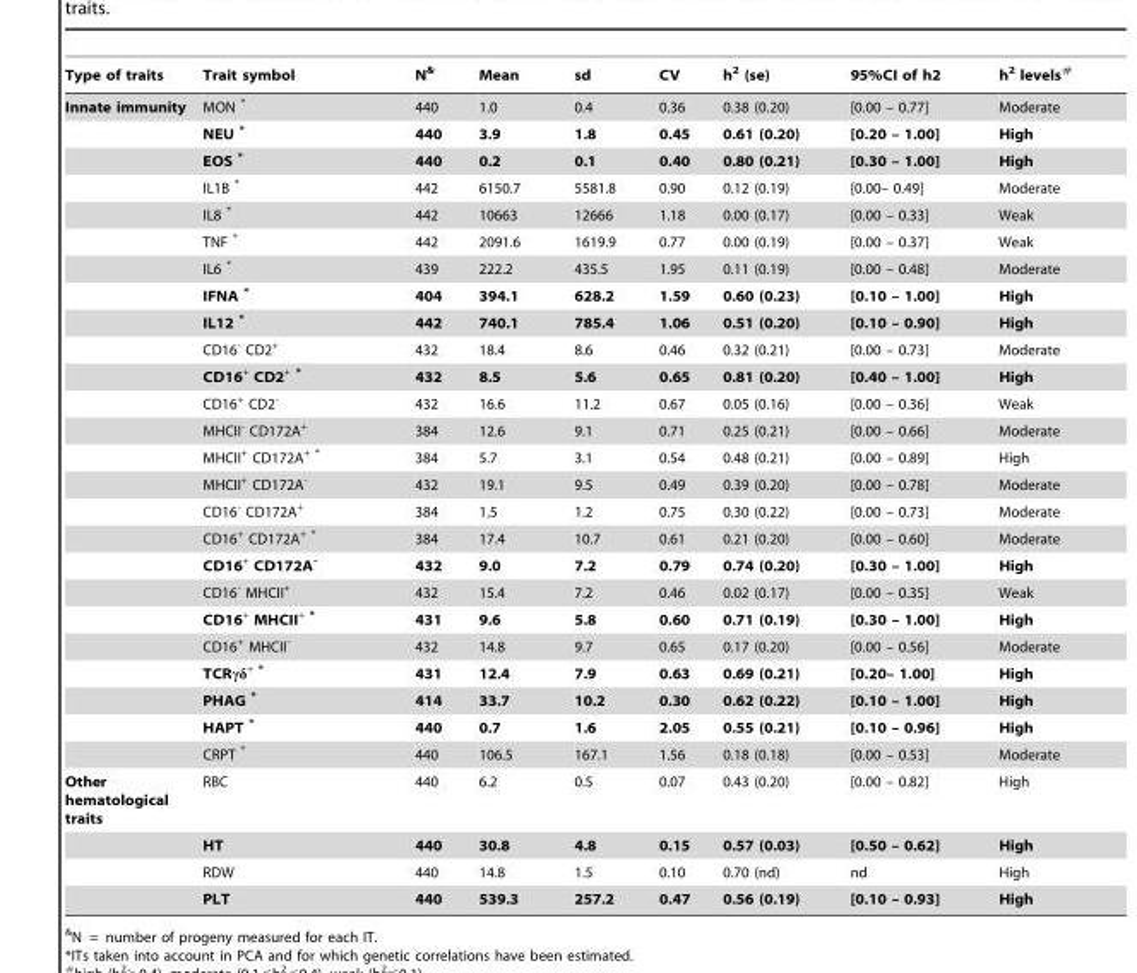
<table><thead><tr><td>Type of traits</td><td>Trait symbol</td><td>N&amp;</td><td>Mean</td><td>sd</td><td>CV</td><td>h<sup>2</sup> (se)</td><td>95%CI of h2</td><td>h<sup>2</sup> levels#</td></tr></thead><tbody><tr><td rowspan="25">Innate immunity</td><td>MON *</td><td>440</td><td>1.0</td><td>0.4</td><td>0.36</td><td>0.38 (0.20)</td><td>[0.00 – 0.77]</td><td>Moderate</td></tr><tr><td>NEU *</td><td>440</td><td>3.9</td><td>1.8</td><td>0.45</td><td>0.61 (0.20)</td><td>[0.20 – 1.00]</td><td>High</td></tr><tr><td>EOS *</td><td>440</td><td>0.2</td><td>0.1</td><td>0.40</td><td>0.80 (0.21)</td><td>[0.30 – 1.00]</td><td>High</td></tr><tr><td>IL1B *</td><td>442</td><td>6150.7</td><td>5581.8</td><td>0.90</td><td>0.12 (0.19)</td><td>[0.00– 0.49]</td><td>Moderate</td></tr><tr><td>IL8 *</td><td>442</td><td>10663</td><td>12666</td><td>1.18</td><td>0.00 (0.17)</td><td>[0.00 – 0.33]</td><td>Weak</td></tr><tr><td>TNF *</td><td>442</td><td>2091.6</td><td>1619.9</td><td>0.77</td><td>0.00 (0.19)</td><td>[0.00 – 0.37]</td><td>Weak</td></tr><tr><td>IL6 *</td><td>439</td><td>222.2</td><td>435.5</td><td>1.95</td><td>0.11 (0.19)</td><td>[0.00 – 0.48]</td><td>Moderate</td></tr><tr><td>IFNA *</td><td>404</td><td>394.1</td><td>628.2</td><td>1.59</td><td>0.60 (0.23)</td><td>[0.10 – 1.00]</td><td>High</td></tr><tr><td>IL12 *</td><td>442</td><td>740.1</td><td>785.4</td><td>1.06</td><td>0.51 (0.20)</td><td>[0.10 – 0.90]</td><td>High</td></tr><tr><td>CD16<sup>-</sup> CD2<sup>+</sup></td><td>432</td><td>18.4</td><td>8.6</td><td>0.46</td><td>0.32 (0.21)</td><td>[0.00 – 0.73]</td><td>Moderate</td></tr><tr><td>CD16<sup>+</sup> CD2<sup>+</sup> *</td><td>432</td><td>8.5</td><td>5.6</td><td>0.65</td><td>0.81 (0.20)</td><td>[0.40 – 1.00]</td><td>High</td></tr><tr><td>CD16<sup>+</sup> CD2<sup>-</sup></td><td>432</td><td>16.6</td><td>11.2</td><td>0.67</td><td>0.05 (0.16)</td><td>[0.00 – 0.36]</td><td>Weak</td></tr><tr><td>MHCII<sup>-</sup> CD172A<sup>+</sup></td><td>384</td><td>12.6</td><td>9.1</td><td>0.71</td><td>0.25 (0.21)</td><td>[0.00 – 0.66]</td><td>Moderate</td></tr><tr><td>MHCII<sup>+</sup> CD172A<sup>+</sup> *</td><td>384</td><td>5.7</td><td>3.1</td><td>0.54</td><td>0.48 (0.21)</td><td>[0.00 – 0.89]</td><td>High</td></tr><tr><td>MHCII<sup>+</sup> CD172A<sup>-</sup></td><td>432</td><td>19.1</td><td>9.5</td><td>0.49</td><td>0.39 (0.20)</td><td>[0.00 – 0.78]</td><td>Moderate</td></tr><tr><td>CD16<sup>-</sup> CD172A<sup>+</sup></td><td>384</td><td>1.5</td><td>1.2</td><td>0.75</td><td>0.30 (0.22)</td><td>[0.00 – 0.73]</td><td>Moderate</td></tr><tr><td>CD16<sup>+</sup> CD172A<sup>+</sup> *</td><td>384</td><td>17.4</td><td>10.7</td><td>0.61</td><td>0.21 (0.20)</td><td>[0.00 – 0.60]</td><td>Moderate</td></tr><tr><td>CD16<sup>+</sup> CD172A<sup>-</sup></td><td>432</td><td>9.0</td><td>7.2</td><td>0.79</td><td>0.74 (0.20)</td><td>[0.30 – 1.00]</td><td>High</td></tr><tr><td>CD16<sup>-</sup> MHCII<sup>+</sup></td><td>432</td><td>15.4</td><td>7.2</td><td>0.46</td><td>0.02 (0.17)</td><td>[0.00 – 0.35]</td><td>Weak</td></tr><tr><td>CD16<sup>+</sup> MHCII<sup>+</sup> *</td><td>431</td><td>9.6</td><td>5.8</td><td>0.60</td><td>0.71 (0.19)</td><td>[0.30 – 1.00]</td><td>High</td></tr><tr><td>CD16<sup>+</sup> MHCII<sup>-</sup></td><td>432</td><td>14.8</td><td>9.7</td><td>0.65</td><td>0.17 (0.20)</td><td>[0.00 – 0.56]</td><td>Moderate</td></tr><tr><td>TCRγδ<sup>+</sup> *</td><td>431</td><td>12.4</td><td>7.9</td><td>0.63</td><td>0.69 (0.21)</td><td>[0.20– 1.00]</td><td>High</td></tr><tr><td>PHAG *</td><td>414</td><td>33.7</td><td>10.2</td><td>0.30</td><td>0.62 (0.22)</td><td>[0.10 – 1.00]</td><td>High</td></tr><tr><td>HAPT *</td><td>440</td><td>0.7</td><td>1.6</td><td>2.05</td><td>0.55 (0.21)</td><td>[0.10 – 0.96]</td><td>High</td></tr><tr><td>CRPT *</td><td>440</td><td>106.5</td><td>167.1</td><td>1.56</td><td>0.18 (0.18)</td><td>[0.00 – 0.53]</td><td>Moderate</td></tr><tr><td rowspan="4">Other hematological traits</td><td>RBC</td><td>440</td><td>6.2</td><td>0.5</td><td>0.07</td><td>0.43 (0.20)</td><td>[0.00 – 0.82]</td><td>High</td></tr><tr><td>HT</td><td>440</td><td>30.8</td><td>4.8</td><td>0.15</td><td>0.57 (0.03)</td><td>[0.50 – 0.62]</td><td>High</td></tr><tr><td>RDW</td><td>440</td><td>14.8</td><td>1.5</td><td>0.10</td><td>0.70 (nd)</td><td>nd</td><td>High</td></tr><tr><td>PLT</td><td>440</td><td>539.3</td><td>257.2</td><td>0.47</td><td>0.56 (0.19)</td><td>[0.10 – 0.93]</td><td>High</td></tr></tbody></table>